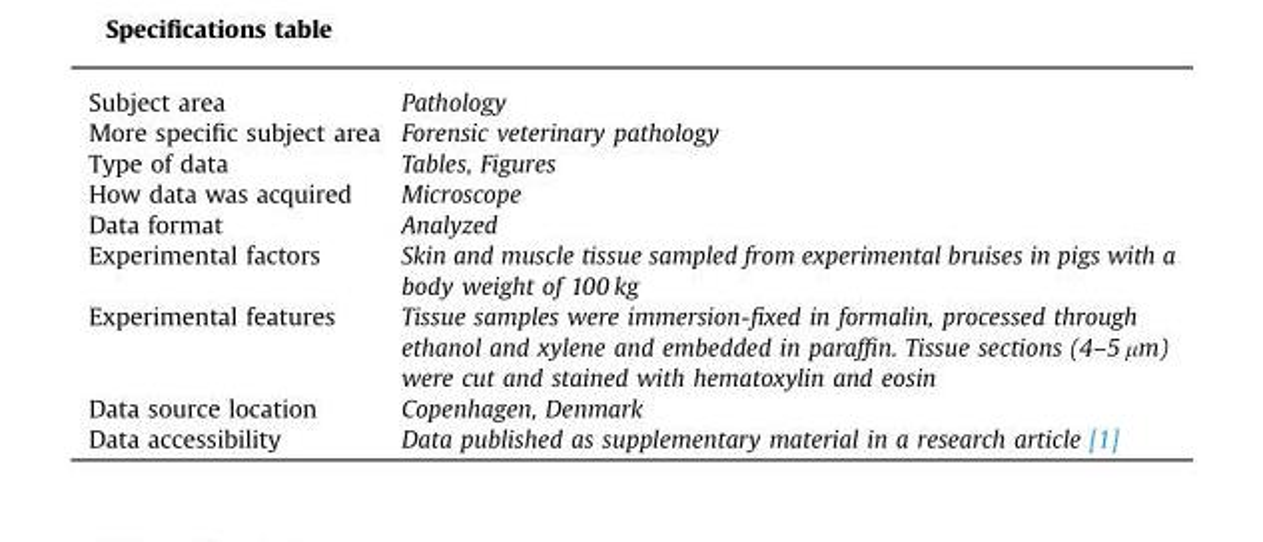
<table><tbody><tr><td>Subject area</td><td>Pathology</td></tr><tr><td>More specific subject area</td><td>Forensic veterinary pathology</td></tr><tr><td>Type of data</td><td>Tables, Figures</td></tr><tr><td>How data was acquired</td><td>Microscope</td></tr><tr><td>Data format</td><td>Analyzed</td></tr><tr><td>Experimental factors</td><td>Skin and muscle tissue sampled from experimental bruises in pigs with a body weight of 100 kg</td></tr><tr><td>Experimental features</td><td>Tissue samples were immersion-fixed in formalin, processed through ethanol and xylene and embedded in paraffin. Tissue sections (4–5 µm) were cut and stained with hematoxylin and eosin</td></tr><tr><td>Data source location</td><td>Copenhagen, Denmark</td></tr><tr><td>Data accessibility</td><td>Data published as supplementary material in a research article [1]</td></tr></tbody></table>